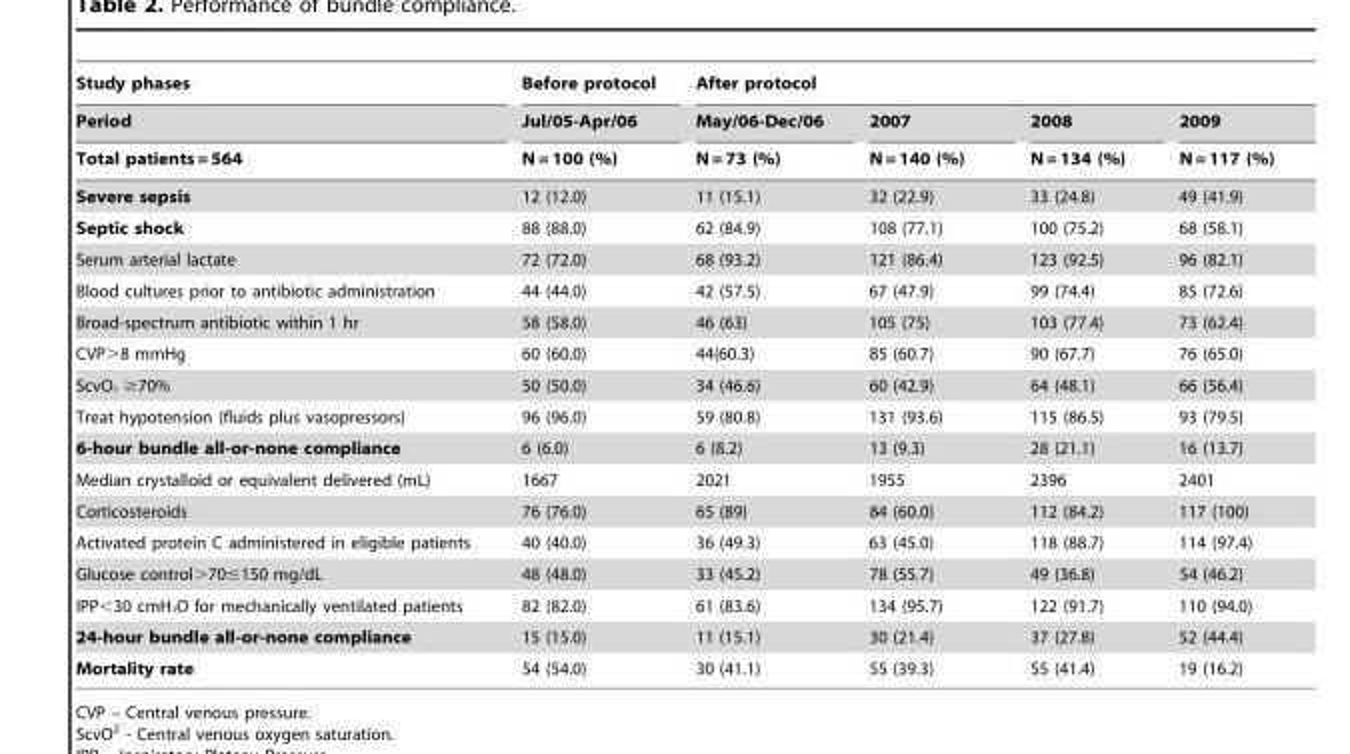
<table><thead><tr><td rowspan="3">Study phases Period Total patients = 564</td><td rowspan="3">Before protocol Jul/05-Apr/06 N = 100 (%)</td><td colspan="4">After protocol</td></tr><tr><td rowspan="2">May/06-Dec/06 N = 73 (%)</td><td rowspan="2">2007 N = 140 (%)</td><td rowspan="2">2008 N = 134 (%)</td><td rowspan="2">2009 N = 117 (%)</td></tr><tr></tr></thead><tbody><tr><td>Severe sepsis</td><td>12 (12.0)</td><td>11 (15.1)</td><td>32 (22.9)</td><td>33 (24.8)</td><td>49 (41.9)</td></tr><tr><td>Septic shock</td><td>88 (88.0)</td><td>62 (84.9)</td><td>108 (77.1)</td><td>100 (75.2)</td><td>68 (58.1)</td></tr><tr><td>Serum arterial lactate</td><td>72 (72.0)</td><td>68 (93.2)</td><td>121 (86.4)</td><td>123 (92.5)</td><td>96 (82.1)</td></tr><tr><td>Blood cultures prior to antibiotic administration</td><td>44 (44.0)</td><td>42 (57.5)</td><td>67 (47.9)</td><td>99 (74.4)</td><td>85 (72.6)</td></tr><tr><td>Broad-spectrum antibiotic within 1 hr</td><td>58 (58.0)</td><td>46 (63)</td><td>105 (75)</td><td>103 (77.4)</td><td>73 (62.4)</td></tr><tr><td>CVP&gt;8 mmHg</td><td>60 (60.0)</td><td>44(60.3)</td><td>85 (60.7)</td><td>90 (67.7)</td><td>76 (65.0)</td></tr><tr><td>ScvO<sup><sub>2</sub></sup> ≥70%</td><td>50 (50.0)</td><td>34 (46.6)</td><td>60 (42.9)</td><td>64 (48.1)</td><td>66 (56.4)</td></tr><tr><td>Treat hypotension (fluids plus vasopressors)</td><td>96 (96.0)</td><td>59 (80.8)</td><td>131 (93.6)</td><td>115 (86.5)</td><td>93 (79.5)</td></tr><tr><td>6-hour bundle all-or-none compliance</td><td>6 (6.0)</td><td>6 (8.2)</td><td>13 (9.3)</td><td>28 (21.1)</td><td>16 (13.7)</td></tr><tr><td>Median crystalloid or equivalent delivered (mL)</td><td>1667</td><td>2021</td><td>1955</td><td>2396</td><td>2401</td></tr><tr><td>Corticosteroids</td><td>76 (76.0)</td><td>65 (89)</td><td>84 (60.0)</td><td>112 (84.2)</td><td>117 (100)</td></tr><tr><td>Activated protein C administered in eligible patients</td><td>40 (40.0)</td><td>36 (49.3)</td><td>63 (45.0)</td><td>118 (88.7)</td><td>114 (97.4)</td></tr><tr><td>Glucose control&gt;70≤150 mg/dL</td><td>48 (48.0)</td><td>33 (45.2)</td><td>78 (55.7)</td><td>49 (36.8)</td><td>54 (46.2)</td></tr><tr><td>IPP&lt;30 cmH<sup><sub>2</sub></sup>O for mechanically ventilated patients</td><td>82 (82.0)</td><td>61 (83.6)</td><td>134 (95.7)</td><td>122 (91.7)</td><td>110 (94.0)</td></tr><tr><td>24-hour bundle all-or-none compliance</td><td>15 (15.0)</td><td>11 (15.1)</td><td>30 (21.4)</td><td>37 (27.8)</td><td>52 (44.4)</td></tr><tr><td>Mortality rate</td><td>54 (54.0)</td><td>30 (41.1)</td><td>55 (39.3)</td><td>55 (41.4)</td><td>19 (16.2)</td></tr></tbody></table>